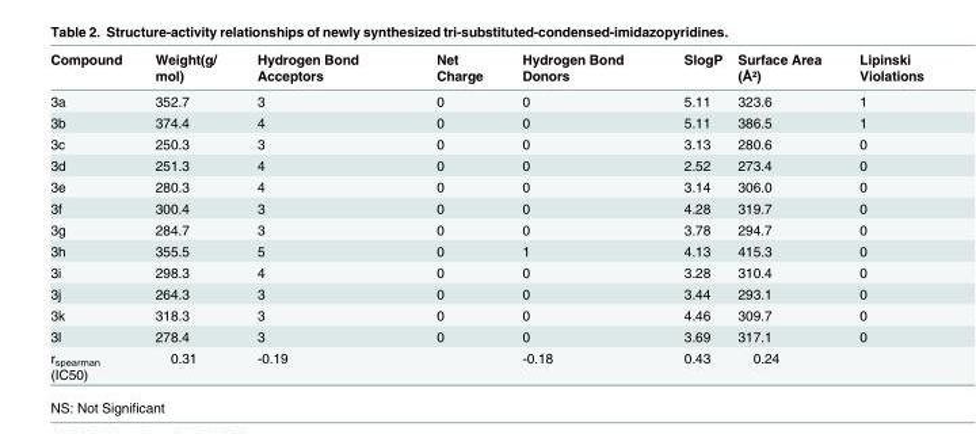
<table><thead><tr><td>Compound</td><td>Weight(g/ mol)</td><td>Hydrogen Bond Acceptors</td><td>Net Charge</td><td>Hydrogen Bond Donors</td><td>SlogP</td><td>Surface Area (Å²)</td><td>Lipinski Violations</td></tr></thead><tbody><tr><td>3a</td><td>352.7</td><td>3</td><td>0</td><td>0</td><td>5.11</td><td>323.6</td><td>1</td></tr><tr><td>3b</td><td>374.4</td><td>4</td><td>0</td><td>0</td><td>5.11</td><td>386.5</td><td>1</td></tr><tr><td>3c</td><td>250.3</td><td>3</td><td>0</td><td>0</td><td>3.13</td><td>280.6</td><td>0</td></tr><tr><td>3d</td><td>251.3</td><td>4</td><td>0</td><td>0</td><td>2.52</td><td>273.4</td><td>0</td></tr><tr><td>3e</td><td>280.3</td><td>4</td><td>0</td><td>0</td><td>3.14</td><td>306.0</td><td>0</td></tr><tr><td>3f</td><td>300.4</td><td>3</td><td>0</td><td>0</td><td>4.28</td><td>319.7</td><td>0</td></tr><tr><td>3g</td><td>284.7</td><td>3</td><td>0</td><td>0</td><td>3.78</td><td>294.7</td><td>0</td></tr><tr><td>3h</td><td>355.5</td><td>5</td><td>0</td><td>1</td><td>4.13</td><td>415.3</td><td>0</td></tr><tr><td>3i</td><td>298.3</td><td>4</td><td>0</td><td>0</td><td>3.28</td><td>310.4</td><td>0</td></tr><tr><td>3j</td><td>264.3</td><td>3</td><td>0</td><td>0</td><td>3.44</td><td>293.1</td><td>0</td></tr><tr><td>3k</td><td>318.3</td><td>3</td><td>0</td><td>0</td><td>4.46</td><td>309.7</td><td>0</td></tr><tr><td>3l</td><td>278.4</td><td>3</td><td>0</td><td>0</td><td>3.69</td><td>317.1</td><td>0</td></tr><tr><td>r<sub>spearman</sub> (IC50)</td><td>0.31</td><td>-0.19</td><td></td><td>-0.18</td><td>0.43</td><td>0.24</td><td></td></tr></tbody></table>